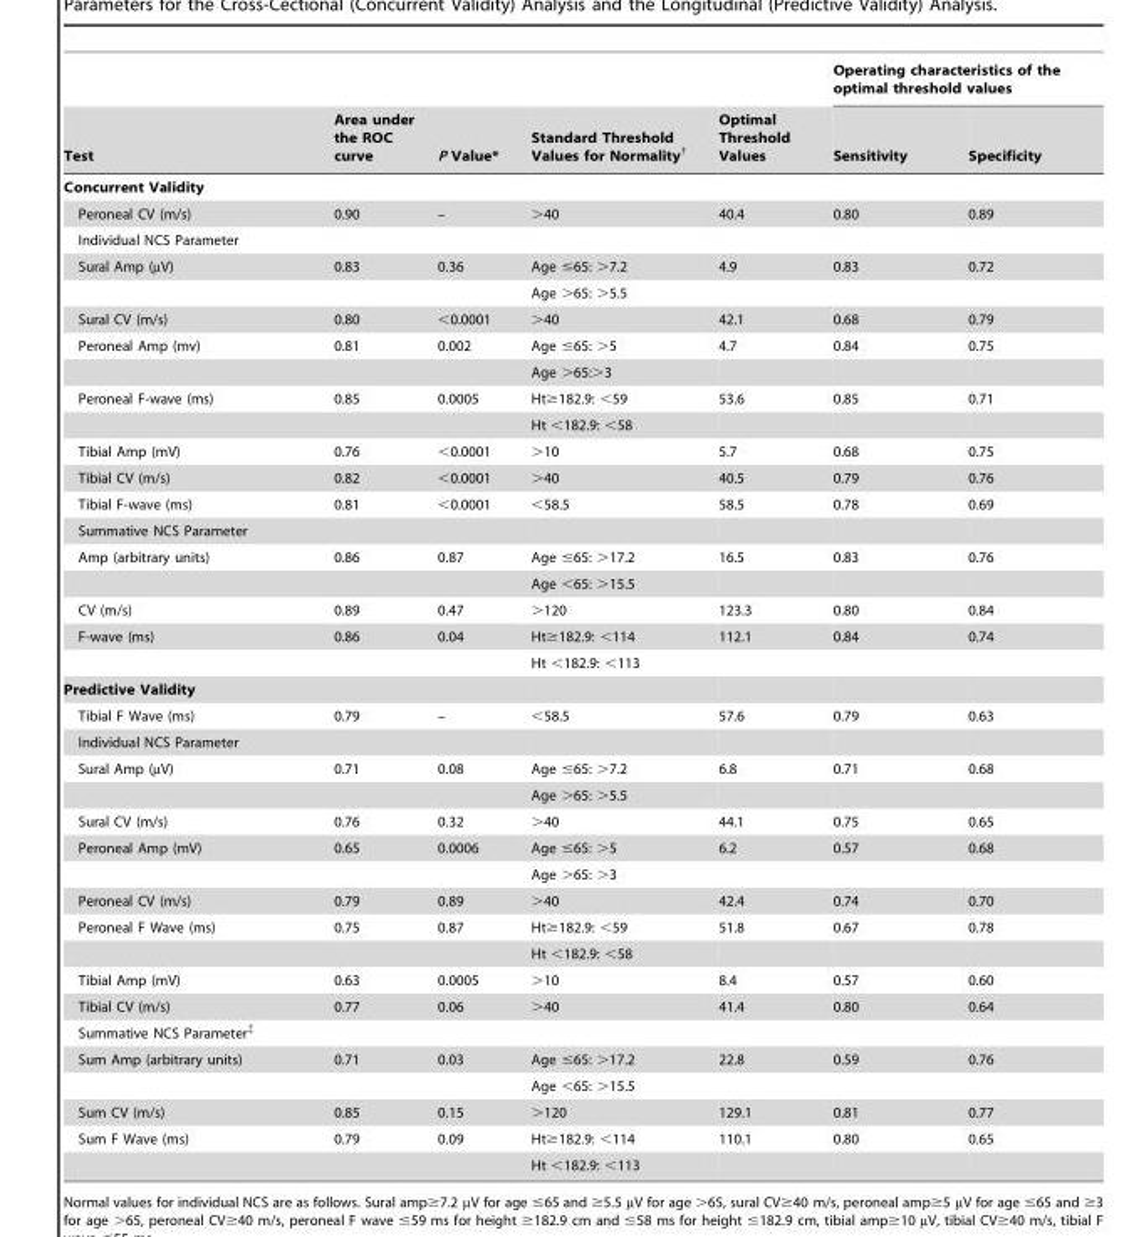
<table><thead><tr><td rowspan="2">Test</td><td rowspan="2">Area under the ROC curve</td><td rowspan="2">P Value*</td><td rowspan="2">Standard Threshold Values for Normality†</td><td rowspan="2">Optimal Threshold Values</td><td colspan="2">Operating characteristics of the optimal threshold values</td></tr><tr><td>Sensitivity</td><td>Specificity</td></tr></thead><tbody><tr><td colspan="7">Concurrent Validity</td></tr><tr><td>Peroneal CV (m/s)</td><td>0.90</td><td>–</td><td>&gt;40</td><td>40.4</td><td>0.80</td><td>0.89</td></tr><tr><td colspan="7">Individual NCS Parameter</td></tr><tr><td rowspan="2">Sural Amp (µV)</td><td>0.83</td><td>0.36</td><td>Age ≤65: &gt;7.2</td><td>4.9</td><td>0.83</td><td>0.72</td></tr><tr><td></td><td></td><td>Age &gt;65: &gt;5.5</td><td></td><td></td><td></td></tr><tr><td>Sural CV (m/s)</td><td>0.80</td><td>&lt;0.0001</td><td>&gt;40</td><td>42.1</td><td>0.68</td><td>0.79</td></tr><tr><td rowspan="2">Peroneal Amp (mv)</td><td>0.81</td><td>0.002</td><td>Age ≤65: &gt;5</td><td>4.7</td><td>0.84</td><td>0.75</td></tr><tr><td></td><td></td><td>Age &gt;65:&gt;3</td><td></td><td></td><td></td></tr><tr><td rowspan="2">Peroneal F-wave (ms)</td><td>0.85</td><td>0.0005</td><td>Ht≥182.9: &lt;59</td><td>53.6</td><td>0.85</td><td>0.71</td></tr><tr><td></td><td></td><td>Ht &lt;182.9: &lt;58</td><td></td><td></td><td></td></tr><tr><td>Tibial Amp (mV)</td><td>0.76</td><td>&lt;0.0001</td><td>&gt;10</td><td>5.7</td><td>0.68</td><td>0.75</td></tr><tr><td>Tibial CV (m/s)</td><td>0.82</td><td>&lt;0.0001</td><td>&gt;40</td><td>40.5</td><td>0.79</td><td>0.76</td></tr><tr><td>Tibial F-wave (ms)</td><td>0.81</td><td>&lt;0.0001</td><td>&lt;58.5</td><td>58.5</td><td>0.78</td><td>0.69</td></tr><tr><td colspan="7">Summative NCS Parameter</td></tr><tr><td rowspan="2">Amp (arbitrary units)</td><td>0.86</td><td>0.87</td><td>Age ≤65: &gt;17.2</td><td>16.5</td><td>0.83</td><td>0.76</td></tr><tr><td></td><td></td><td>Age &lt;65: &gt;15.5</td><td></td><td></td><td></td></tr><tr><td>CV (m/s)</td><td>0.89</td><td>0.47</td><td>&gt;120</td><td>123.3</td><td>0.80</td><td>0.84</td></tr><tr><td rowspan="2">F-wave (ms)</td><td>0.86</td><td>0.04</td><td>Ht≥182.9: &lt;114</td><td>112.1</td><td>0.84</td><td>0.74</td></tr><tr><td></td><td></td><td>Ht &lt;182.9: &lt;113</td><td></td><td></td><td></td></tr><tr><td colspan="7">Predictive Validity</td></tr><tr><td>Tibial F Wave (ms)</td><td>0.79</td><td>–</td><td>&lt;58.5</td><td>57.6</td><td>0.79</td><td>0.63</td></tr><tr><td colspan="7">Individual NCS Parameter</td></tr><tr><td rowspan="2">Sural Amp (µV)</td><td>0.71</td><td>0.08</td><td>Age ≤65: &gt;7.2</td><td>6.8</td><td>0.71</td><td>0.68</td></tr><tr><td></td><td></td><td>Age &gt;65: &gt;5.5</td><td></td><td></td><td></td></tr><tr><td>Sural CV (m/s)</td><td>0.76</td><td>0.32</td><td>&gt;40</td><td>44.1</td><td>0.75</td><td>0.65</td></tr><tr><td rowspan="2">Peroneal Amp (mV)</td><td>0.65</td><td>0.0006</td><td>Age ≤65: &gt;5</td><td>6.2</td><td>0.57</td><td>0.68</td></tr><tr><td></td><td></td><td>Age &gt;65: &gt;3</td><td></td><td></td><td></td></tr><tr><td>Peroneal CV (m/s)</td><td>0.79</td><td>0.89</td><td>&gt;40</td><td>42.4</td><td>0.74</td><td>0.70</td></tr><tr><td rowspan="2">Peroneal F Wave (ms)</td><td>0.75</td><td>0.87</td><td>Ht≥182.9: &lt;59</td><td>51.8</td><td>0.67</td><td>0.78</td></tr><tr><td></td><td></td><td>Ht &lt;182.9: &lt;58</td><td></td><td></td><td></td></tr><tr><td>Tibial Amp (mV)</td><td>0.63</td><td>0.0005</td><td>&gt;10</td><td>8.4</td><td>0.57</td><td>0.60</td></tr><tr><td>Tibial CV (m/s)</td><td>0.77</td><td>0.06</td><td>&gt;40</td><td>41.4</td><td>0.80</td><td>0.64</td></tr><tr><td colspan="7">Summative NCS Parameter‡</td></tr><tr><td rowspan="2">Sum Amp (arbitrary units)</td><td>0.71</td><td>0.03</td><td>Age ≤65: &gt;17.2</td><td>22.8</td><td>0.59</td><td>0.76</td></tr><tr><td></td><td></td><td>Age &lt;65: &gt;15.5</td><td></td><td></td><td></td></tr><tr><td>Sum CV (m/s)</td><td>0.85</td><td>0.15</td><td>&gt;120</td><td>129.1</td><td>0.81</td><td>0.77</td></tr><tr><td rowspan="2">Sum F Wave (ms)</td><td>0.79</td><td>0.09</td><td>Ht≥182.9: &lt;114</td><td>110.1</td><td>0.80</td><td>0.65</td></tr><tr><td></td><td></td><td>Ht &lt;182.9: &lt;113</td><td></td><td></td><td></td></tr></tbody></table>